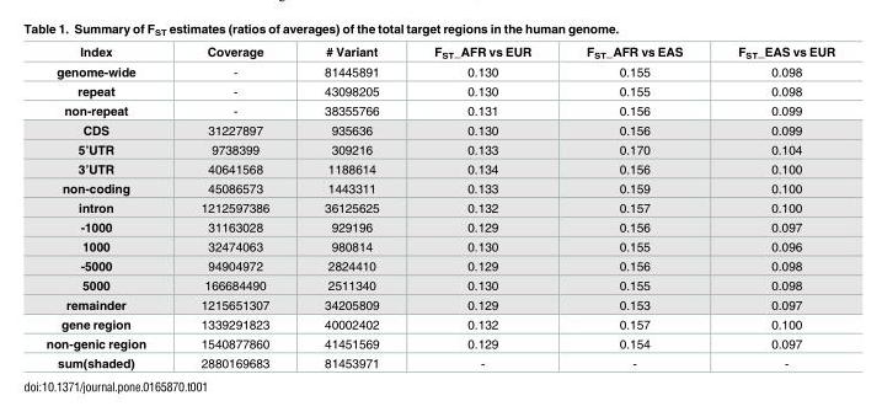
<table><thead><tr><td>Index</td><td>Coverage</td><td># Variant</td><td>FST_AFR vs EUR</td><td>FST_AFR vs EAS</td><td>FST_EAS vs EUR</td></tr></thead><tbody><tr><td>genome-wide</td><td>-</td><td>81445891</td><td>0.130</td><td>0.155</td><td>0.098</td></tr><tr><td>repeat</td><td>-</td><td>43098205</td><td>0.130</td><td>0.155</td><td>0.098</td></tr><tr><td>non-repeat</td><td>-</td><td>38355766</td><td>0.131</td><td>0.156</td><td>0.099</td></tr><tr><td>CDS</td><td>31227897</td><td>935636</td><td>0.130</td><td>0.156</td><td>0.099</td></tr><tr><td>5’UTR</td><td>9738399</td><td>309216</td><td>0.133</td><td>0.170</td><td>0.104</td></tr><tr><td>3’UTR</td><td>40641568</td><td>1188614</td><td>0.134</td><td>0.156</td><td>0.100</td></tr><tr><td>non-coding</td><td>45086573</td><td>1443311</td><td>0.133</td><td>0.159</td><td>0.100</td></tr><tr><td>intron</td><td>1212597386</td><td>36125625</td><td>0.132</td><td>0.157</td><td>0.100</td></tr><tr><td>-1000</td><td>31163028</td><td>929196</td><td>0.129</td><td>0.156</td><td>0.097</td></tr><tr><td>1000</td><td>32474063</td><td>980814</td><td>0.130</td><td>0.155</td><td>0.096</td></tr><tr><td>-5000</td><td>94904972</td><td>2824410</td><td>0.129</td><td>0.156</td><td>0.098</td></tr><tr><td>5000</td><td>166684490</td><td>2511340</td><td>0.130</td><td>0.155</td><td>0.098</td></tr><tr><td>remainder</td><td>1215651307</td><td>34205809</td><td>0.129</td><td>0.153</td><td>0.097</td></tr><tr><td>gene region</td><td>1339291823</td><td>40002402</td><td>0.132</td><td>0.157</td><td>0.100</td></tr><tr><td>non-genic region</td><td>1540877860</td><td>41451569</td><td>0.129</td><td>0.154</td><td>0.097</td></tr><tr><td>sum(shaded)</td><td>2880169683</td><td>81453971</td><td>-</td><td>-</td><td>-</td></tr></tbody></table>